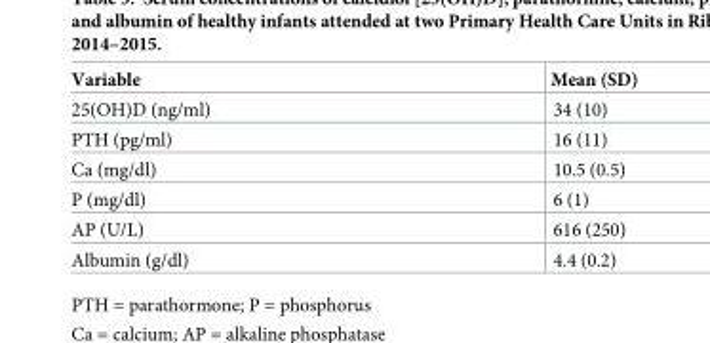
<table><thead><tr><td>Variable</td><td>Mean (SD)</td></tr></thead><tbody><tr><td>25(OH)D (ng/ml)</td><td>34 (10)</td></tr><tr><td>PTH (pg/ml)</td><td>16 (11)</td></tr><tr><td>Ca (mg/dl)</td><td>10.5 (0.5)</td></tr><tr><td>P (mg/dl)</td><td>6 (1)</td></tr><tr><td>AP (U/L)</td><td>616 (250)</td></tr><tr><td>Albumin (g/dl)</td><td>4.4 (0.2)</td></tr></tbody></table>